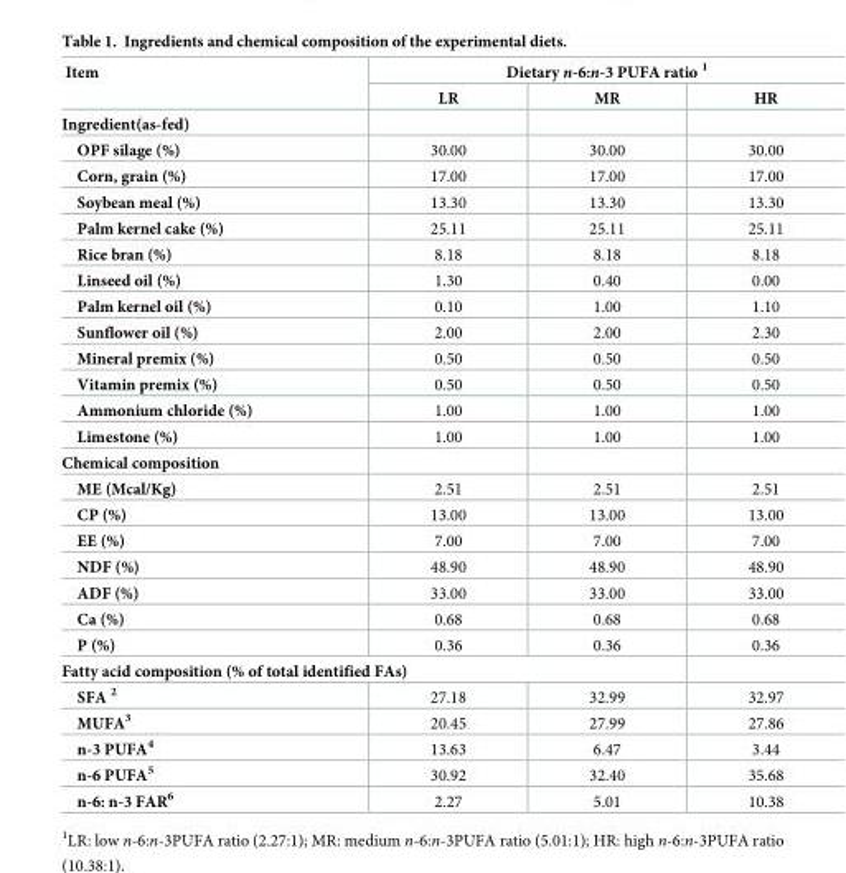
<table><thead><tr><td rowspan="2">Item</td><td colspan="3">Dietary n-6:n-3 PUFA ratio <sup>1</sup></td></tr><tr><td>LR</td><td>MR</td><td>HR</td></tr></thead><tbody><tr><td colspan="4">Ingredient(as-fed)</td></tr><tr><td>OPF silage (%)</td><td>30.00</td><td>30.00</td><td>30.00</td></tr><tr><td>Corn, grain (%)</td><td>17.00</td><td>17.00</td><td>17.00</td></tr><tr><td>Soybean meal (%)</td><td>13.30</td><td>13.30</td><td>13.30</td></tr><tr><td>Palm kernel cake (%)</td><td>25.11</td><td>25.11</td><td>25.11</td></tr><tr><td>Rice bran (%)</td><td>8.18</td><td>8.18</td><td>8.18</td></tr><tr><td>Linseed oil (%)</td><td>1.30</td><td>0.40</td><td>0.00</td></tr><tr><td>Palm kernel oil (%)</td><td>0.10</td><td>1.00</td><td>1.10</td></tr><tr><td>Sunflower oil (%)</td><td>2.00</td><td>2.00</td><td>2.30</td></tr><tr><td>Mineral premix (%)</td><td>0.50</td><td>0.50</td><td>0.50</td></tr><tr><td>Vitamin premix (%)</td><td>0.50</td><td>0.50</td><td>0.50</td></tr><tr><td>Ammonium chloride (%)</td><td>1.00</td><td>1.00</td><td>1.00</td></tr><tr><td>Limestone (%)</td><td>1.00</td><td>1.00</td><td>1.00</td></tr><tr><td colspan="4">Chemical composition</td></tr><tr><td>ME (Mcal/Kg)</td><td>2.51</td><td>2.51</td><td>2.51</td></tr><tr><td>CP (%)</td><td>13.00</td><td>13.00</td><td>13.00</td></tr><tr><td>EE (%)</td><td>7.00</td><td>7.00</td><td>7.00</td></tr><tr><td>NDF (%)</td><td>48.90</td><td>48.90</td><td>48.90</td></tr><tr><td>ADF (%)</td><td>33.00</td><td>33.00</td><td>33.00</td></tr><tr><td>Ca (%)</td><td>0.68</td><td>0.68</td><td>0.68</td></tr><tr><td>P (%)</td><td>0.36</td><td>0.36</td><td>0.36</td></tr><tr><td colspan="4">Fatty acid composition (% of total identified FAs)</td></tr><tr><td>SFA <sup>2</sup></td><td>27.18</td><td>32.99</td><td>32.97</td></tr><tr><td>MUFA<sup>3</sup></td><td>20.45</td><td>27.99</td><td>27.86</td></tr><tr><td>n-3 PUFA<sup>4</sup></td><td>13.63</td><td>6.47</td><td>3.44</td></tr><tr><td>n-6 PUFA<sup>5</sup></td><td>30.92</td><td>32.40</td><td>35.68</td></tr><tr><td>n-6: n-3 FAR<sup>6</sup></td><td>2.27</td><td>5.01</td><td>10.38</td></tr></tbody></table>